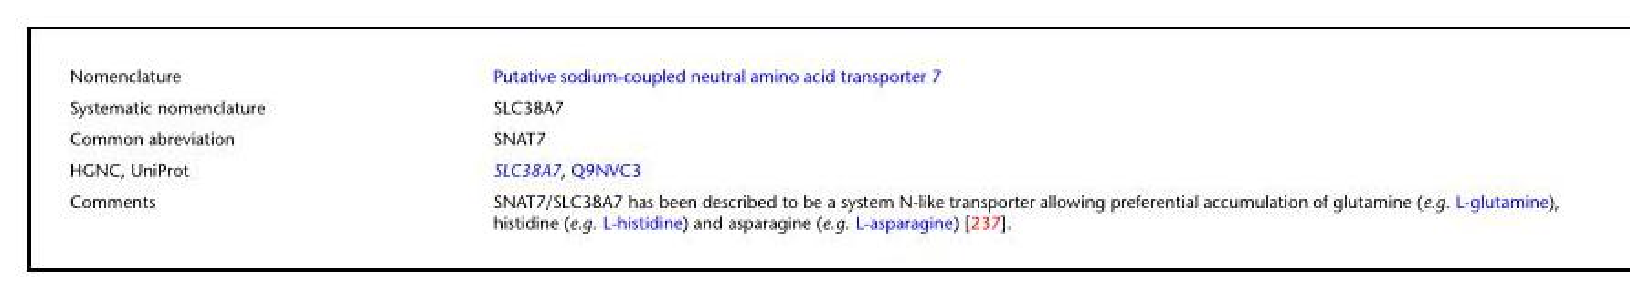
<table><tbody><tr><td>Nomenclature</td><td>Putative sodium-coupled neutral amino acid transporter 7</td></tr><tr><td>Systematic nomenclature</td><td>SLC38A7</td></tr><tr><td>Common abreviation</td><td>SNAT7</td></tr><tr><td>HGNC, UniProt</td><td>SLC38A7, Q9NVC3</td></tr><tr><td>Comments</td><td>SNAT7/SLC38A7 has been described to be a system N-like transporter allowing preferential accumulation of glutamine (e.g. L-glutamine), histidine (e.g. L-histidine) and asparagine (e.g. L-asparagine) [237].</td></tr></tbody></table>